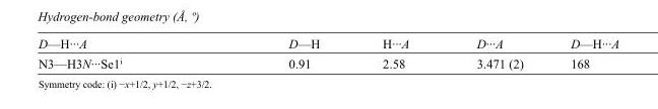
<table><tbody><tr><td>D—H···A</td><td>D—H</td><td>H···A</td><td>D···A</td><td>D—H···A</td></tr><tr><td>N3—H3N···Se1<sup>i</sup></td><td>0.91</td><td>2.58</td><td>3.471 (2)</td><td>168</td></tr></tbody></table>